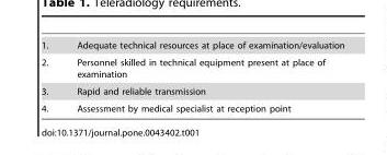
<table><tbody><tr><td>1.</td><td>Adequate technical resources at place of examination/evaluation</td></tr><tr><td>2.</td><td>Personnel skilled in technical equipment present at place of examination</td></tr><tr><td>3.</td><td>Rapid and reliable transmission</td></tr><tr><td>4.</td><td>Assessment by medical specialist at reception point</td></tr></tbody></table>